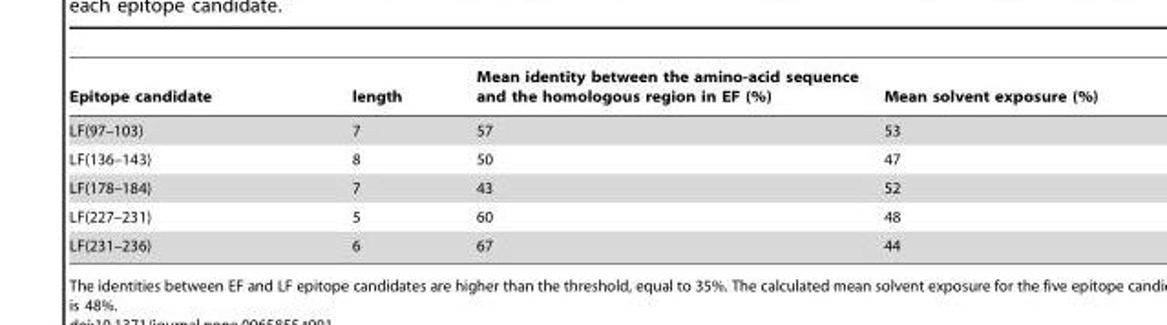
<table><thead><tr><td>Epitope candidate</td><td>length</td><td>Mean identity between the amino-acid sequence and the homologous region in EF (%)</td><td>Mean solvent exposure (%)</td></tr></thead><tbody><tr><td>LF(97–103)</td><td>7</td><td>57</td><td>53</td></tr><tr><td>LF(136–143)</td><td>8</td><td>50</td><td>47</td></tr><tr><td>LF(178–184)</td><td>7</td><td>43</td><td>52</td></tr><tr><td>LF(227–231)</td><td>5</td><td>60</td><td>48</td></tr><tr><td>LF(231–236)</td><td>6</td><td>67</td><td>44</td></tr></tbody></table>